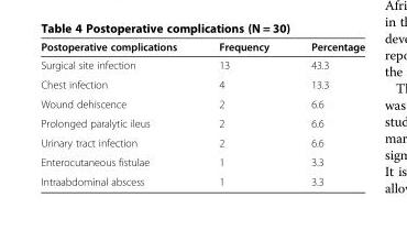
<table><thead><tr><td>Postoperative complications</td><td>Frequency</td><td>Percentage</td></tr></thead><tbody><tr><td>Surgical site infection</td><td>13</td><td>43.3</td></tr><tr><td>Chest infection</td><td>4</td><td>13.3</td></tr><tr><td>Wound dehiscence</td><td>2</td><td>6.6</td></tr><tr><td>Prolonged paralytic ileus</td><td>2</td><td>6.6</td></tr><tr><td>Urinary tract infection</td><td>2</td><td>6.6</td></tr><tr><td>Enterocutaneous fistulae</td><td>1</td><td>3.3</td></tr><tr><td>Intraabdominal abscess</td><td>1</td><td>3.3</td></tr></tbody></table>